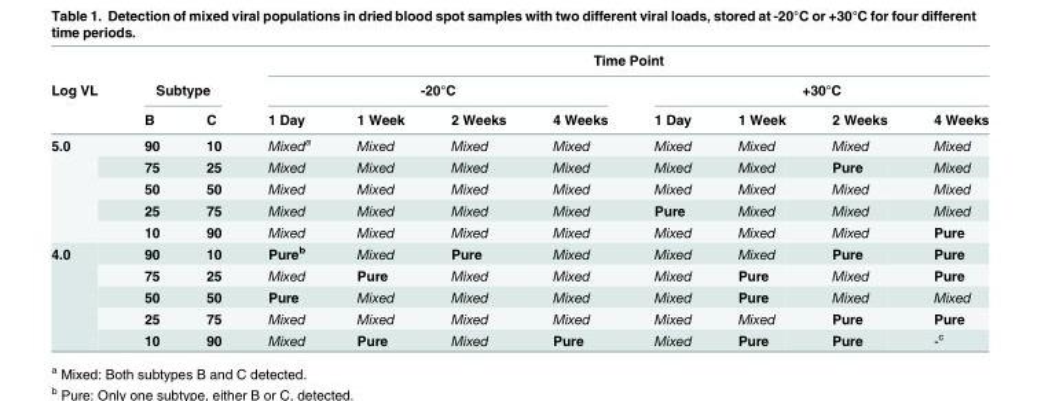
<table><thead><tr><td rowspan="3">Log VL</td><td></td><td></td><td colspan="8">Time Point</td></tr><tr><td colspan="2">Subtype</td><td colspan="4">-20°C</td><td colspan="4">+30°C</td></tr><tr><td>B</td><td>C</td><td>1 Day</td><td>1 Week</td><td>2 Weeks</td><td>4 Weeks</td><td>1 Day</td><td>1 Week</td><td>2 Weeks</td><td>4 Weeks</td></tr></thead><tbody><tr><td rowspan="5">5.0</td><td>90</td><td>10</td><td>Mixed<sup>a</sup></td><td>Mixed</td><td>Mixed</td><td>Mixed</td><td>Mixed</td><td>Mixed</td><td>Mixed</td><td>Mixed</td></tr><tr><td>75</td><td>25</td><td>Mixed</td><td>Mixed</td><td>Mixed</td><td>Mixed</td><td>Mixed</td><td>Mixed</td><td>Pure</td><td>Mixed</td></tr><tr><td>50</td><td>50</td><td>Mixed</td><td>Mixed</td><td>Mixed</td><td>Mixed</td><td>Mixed</td><td>Mixed</td><td>Mixed</td><td>Mixed</td></tr><tr><td>25</td><td>75</td><td>Mixed</td><td>Mixed</td><td>Mixed</td><td>Mixed</td><td>Pure</td><td>Mixed</td><td>Mixed</td><td>Mixed</td></tr><tr><td>10</td><td>90</td><td>Mixed</td><td>Mixed</td><td>Mixed</td><td>Mixed</td><td>Mixed</td><td>Mixed</td><td>Mixed</td><td>Pure</td></tr><tr><td rowspan="5">4.0</td><td>90</td><td>10</td><td>Pure<sup>b</sup></td><td>Mixed</td><td>Pure</td><td>Mixed</td><td>Mixed</td><td>Mixed</td><td>Pure</td><td>Pure</td></tr><tr><td>75</td><td>25</td><td>Mixed</td><td>Pure</td><td>Mixed</td><td>Mixed</td><td>Mixed</td><td>Pure</td><td>Mixed</td><td>Pure</td></tr><tr><td>50</td><td>50</td><td>Pure</td><td>Mixed</td><td>Mixed</td><td>Mixed</td><td>Mixed</td><td>Pure</td><td>Mixed</td><td>Mixed</td></tr><tr><td>25</td><td>75</td><td>Mixed</td><td>Mixed</td><td>Mixed</td><td>Mixed</td><td>Mixed</td><td>Mixed</td><td>Pure</td><td>Pure</td></tr><tr><td>10</td><td>90</td><td>Mixed</td><td>Pure</td><td>Mixed</td><td>Pure</td><td>Mixed</td><td>Pure</td><td>Pure</td><td>-<sup>c</sup></td></tr></tbody></table>